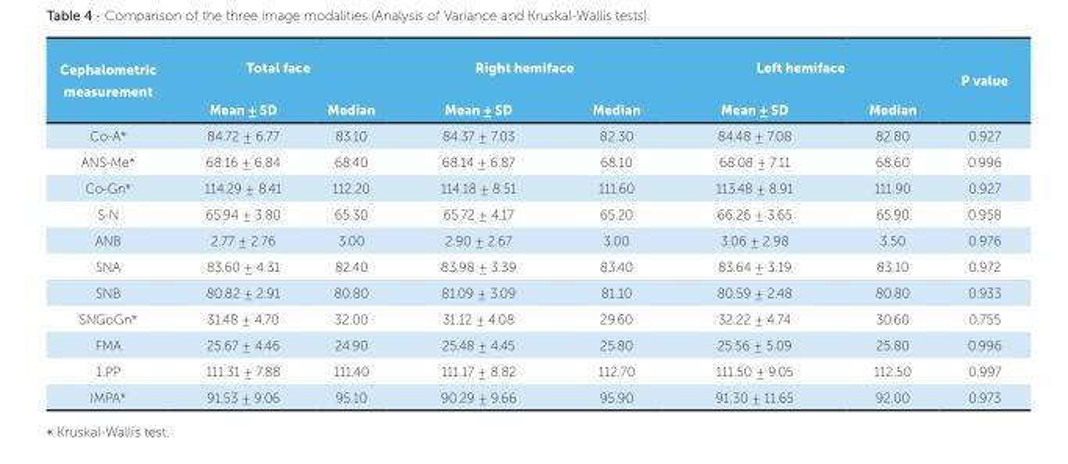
<table><thead><tr><td rowspan="2">Cephalometric measurement</td><td colspan="2">Total face</td><td colspan="2">Right hemiface</td><td colspan="2">Left hemiface</td><td rowspan="2">P value</td></tr><tr><td>Mean ± SD</td><td>Median</td><td>Mean ± SD</td><td>Median</td><td>Mean ± SD</td><td>Median</td></tr></thead><tbody><tr><td>Co-A*</td><td>84.72 ± 6.77</td><td>83.10</td><td>84.37 ± 7.03</td><td>82.30</td><td>84.48 ± 7.08</td><td>82.80</td><td>0.927</td></tr><tr><td>ANS-Me*</td><td>68.16 ± 6.84</td><td>68.40</td><td>68.14 ± 6.87</td><td>68.10</td><td>68.08 ± 7.11</td><td>68.60</td><td>0.996</td></tr><tr><td>Co-Gn*</td><td>114.29 ± 8.41</td><td>112.20</td><td>114.18 ± 8.51</td><td>111.60</td><td>113.48 ± 8.91</td><td>111.90</td><td>0.927</td></tr><tr><td>S-N</td><td>65.94 ± 3.80</td><td>65.30</td><td>65.72 ± 4.17</td><td>65.20</td><td>66.26 ± 3.65</td><td>65.90</td><td>0.958</td></tr><tr><td>ANB</td><td>2.77 ± 2.76</td><td>3.00</td><td>2.90 ± 2.67</td><td>3.00</td><td>3.06 ± 2.98</td><td>3.50</td><td>0.976</td></tr><tr><td>SNA</td><td>83.60 ± 4.31</td><td>82.40</td><td>83.98 ± 3.39</td><td>83.40</td><td>83.64 ± 3.19</td><td>83.10</td><td>0.972</td></tr><tr><td>SNB</td><td>80.82 ± 2.91</td><td>80.80</td><td>81.09 ± 3.09</td><td>81.10</td><td>80.59 ± 2.48</td><td>80.80</td><td>0.933</td></tr><tr><td>SNGoGn*</td><td>31.48 ± 4.70</td><td>32.00</td><td>31.12 ± 4.08</td><td>29.60</td><td>32.22 ± 4.74</td><td>30.60</td><td>0.755</td></tr><tr><td>FMA</td><td>25.67 ± 4.46</td><td>24.90</td><td>25.48 ± 4.45</td><td>25.80</td><td>25.56 ± 5.09</td><td>25.80</td><td>0.996</td></tr><tr><td>1.PP</td><td>111.31 ± 7.88</td><td>111.40</td><td>111.17 ± 8.82</td><td>112.70</td><td>111.50 ± 9.05</td><td>112.50</td><td>0.997</td></tr><tr><td>IMPA*</td><td>91.53 ± 9.06</td><td>95.10</td><td>90.29 ± 9.66</td><td>95.90</td><td>91.30 ± 11.65</td><td>92.00</td><td>0.973</td></tr></tbody></table>